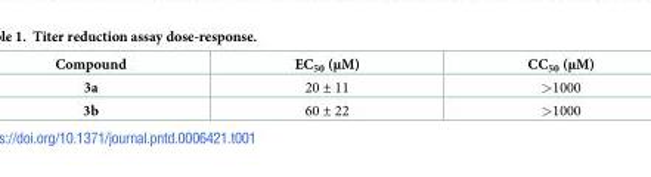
<table><thead><tr><td>Compound</td><td>EC<sub>50</sub> (μM)</td><td>CC<sub>50</sub> (μM)</td></tr></thead><tbody><tr><td>3a</td><td>20 ± 11</td><td>&gt;1000</td></tr><tr><td>3b</td><td>60 ± 22</td><td>&gt;1000</td></tr></tbody></table>